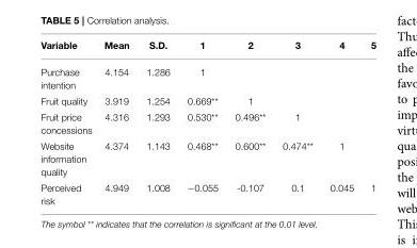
<table><thead><tr><td>Variable</td><td>Mean</td><td>S.D.</td><td>1</td><td>2</td><td>3</td><td>4</td><td>5</td></tr></thead><tbody><tr><td>Purchase intention</td><td>4.154</td><td>1.286</td><td>1</td><td></td><td></td><td></td><td></td></tr><tr><td>Fruit quality</td><td>3.919</td><td>1.254</td><td>0.669**</td><td>1</td><td></td><td></td><td></td></tr><tr><td>Fruit price concessions</td><td>4.316</td><td>1.293</td><td>0.530**</td><td>0.496**</td><td>1</td><td></td><td></td></tr><tr><td>Website information quality</td><td>4.374</td><td>1.143</td><td>0.468**</td><td>0.600**</td><td>0.474**</td><td>1</td><td></td></tr><tr><td>Perceived risk</td><td>4.949</td><td>1.008</td><td>−0.055</td><td>-0.107</td><td>0.1</td><td>0.045</td><td>1</td></tr></tbody></table>